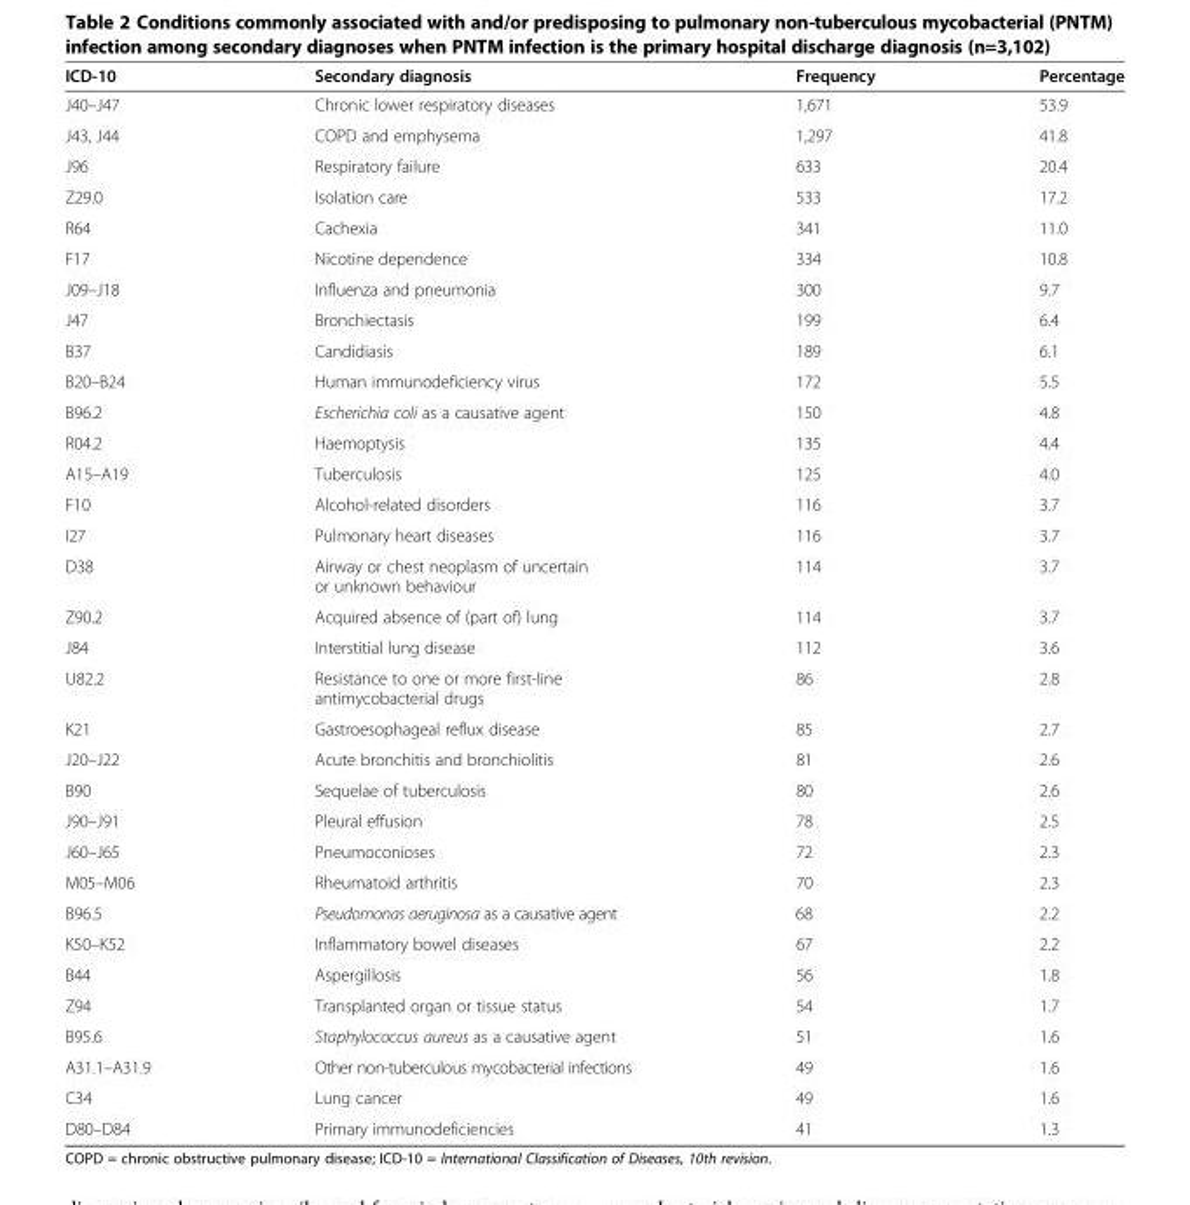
<table><thead><tr><td>ICD-10</td><td>Secondary diagnosis</td><td>Frequency</td><td>Percentage</td></tr></thead><tbody><tr><td>J40–J47</td><td>Chronic lower respiratory diseases</td><td>1,671</td><td>53.9</td></tr><tr><td>J43, J44</td><td>COPD and emphysema</td><td>1,297</td><td>41.8</td></tr><tr><td>J96</td><td>Respiratory failure</td><td>633</td><td>20.4</td></tr><tr><td>Z29.0</td><td>Isolation care</td><td>533</td><td>17.2</td></tr><tr><td>R64</td><td>Cachexia</td><td>341</td><td>11.0</td></tr><tr><td>F17</td><td>Nicotine dependence</td><td>334</td><td>10.8</td></tr><tr><td>J09–J18</td><td>Influenza and pneumonia</td><td>300</td><td>9.7</td></tr><tr><td>J47</td><td>Bronchiectasis</td><td>199</td><td>6.4</td></tr><tr><td>B37</td><td>Candidiasis</td><td>189</td><td>6.1</td></tr><tr><td>B20–B24</td><td>Human immunodeficiency virus</td><td>172</td><td>5.5</td></tr><tr><td>B96.2</td><td>Escherichia coli as a causative agent</td><td>150</td><td>4.8</td></tr><tr><td>R04.2</td><td>Haemoptysis</td><td>135</td><td>4.4</td></tr><tr><td>A15–A19</td><td>Tuberculosis</td><td>125</td><td>4.0</td></tr><tr><td>F10</td><td>Alcohol-related disorders</td><td>116</td><td>3.7</td></tr><tr><td>I27</td><td>Pulmonary heart diseases</td><td>116</td><td>3.7</td></tr><tr><td>D38</td><td>Airway or chest neoplasm of uncertain or unknown behaviour</td><td>114</td><td>3.7</td></tr><tr><td>Z90.2</td><td>Acquired absence of (part of) lung</td><td>114</td><td>3.7</td></tr><tr><td>J84</td><td>Interstitial lung disease</td><td>112</td><td>3.6</td></tr><tr><td>U82.2</td><td>Resistance to one or more first-line antimycobacterial drugs</td><td>86</td><td>2.8</td></tr><tr><td>K21</td><td>Gastroesophageal reflux disease</td><td>85</td><td>2.7</td></tr><tr><td>J20–J22</td><td>Acute bronchitis and bronchiolitis</td><td>81</td><td>2.6</td></tr><tr><td>B90</td><td>Sequelae of tuberculosis</td><td>80</td><td>2.6</td></tr><tr><td>J90–J91</td><td>Pleural effusion</td><td>78</td><td>2.5</td></tr><tr><td>J60–J65</td><td>Pneumoconioses</td><td>72</td><td>2.3</td></tr><tr><td>M05–M06</td><td>Rheumatoid arthritis</td><td>70</td><td>2.3</td></tr><tr><td>B96.5</td><td>Pseudomonas aeruginosa as a causative agent</td><td>68</td><td>2.2</td></tr><tr><td>K50–K52</td><td>Inflammatory bowel diseases</td><td>67</td><td>2.2</td></tr><tr><td>B44</td><td>Aspergillosis</td><td>56</td><td>1.8</td></tr><tr><td>Z94</td><td>Transplanted organ or tissue status</td><td>54</td><td>1.7</td></tr><tr><td>B95.6</td><td>Staphylococcus aureus as a causative agent</td><td>51</td><td>1.6</td></tr><tr><td>A31.1–A31.9</td><td>Other non-tuberculous mycobacterial infections</td><td>49</td><td>1.6</td></tr><tr><td>C34</td><td>Lung cancer</td><td>49</td><td>1.6</td></tr><tr><td>D80–D84</td><td>Primary immunodeficiencies</td><td>41</td><td>1.3</td></tr></tbody></table>